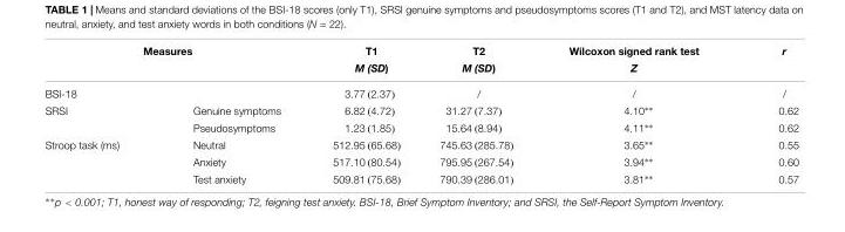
<table><thead><tr><td colspan="2">Measures</td><td rowspan="2">T1 M (SD)</td><td rowspan="2">T2 M (SD)</td><td rowspan="2">Wilcoxon signed rank test Z</td><td rowspan="2">r</td></tr><tr><td></td><td></td></tr></thead><tbody><tr><td>BSI-18</td><td></td><td>3.77 (2.37)</td><td>/</td><td>/</td><td>/</td></tr><tr><td rowspan="2">SRSI</td><td>Genuine symptoms</td><td>6.82 (4.72)</td><td>31.27 (7.37)</td><td>4.10∗∗</td><td>0.62</td></tr><tr><td>Pseudosymptoms</td><td>1.23 (1.85)</td><td>15.64 (8.94)</td><td>4.11∗∗</td><td>0.62</td></tr><tr><td rowspan="3">Stroop task (ms)</td><td>Neutral</td><td>512.95 (65.68)</td><td>745.63 (285.78)</td><td>3.65∗∗</td><td>0.55</td></tr><tr><td>Anxiety</td><td>517.10 (80.54)</td><td>795.95 (267.54)</td><td>3.94∗∗</td><td>0.60</td></tr><tr><td>Test anxiety</td><td>509.81 (75.68)</td><td>790.39 (286.01)</td><td>3.81∗∗</td><td>0.57</td></tr></tbody></table>